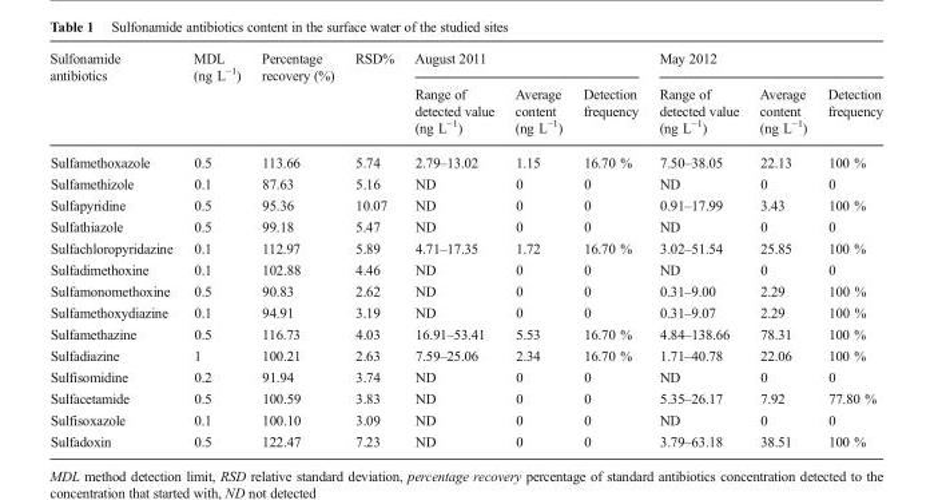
<table><thead><tr><td rowspan="2">Sulfonamide antibiotics</td><td rowspan="2">MDL (ng L<sup>−1</sup>)</td><td rowspan="2">Percentage recovery (%)</td><td rowspan="2">RSD%</td><td colspan="3">August 2011</td><td colspan="3">May 2012</td></tr><tr><td>Range of detected value (ng L<sup>−1</sup>)</td><td>Average content (ng L<sup>−1</sup>)</td><td>Detection frequency</td><td>Range of detected value (ng L<sup>−1</sup>)</td><td>Average content (ng L<sup>−1</sup>)</td><td>Detection frequency</td></tr></thead><tbody><tr><td>Sulfamethoxazole</td><td>0.5</td><td>113.66</td><td>5.74</td><td>2.79–13.02</td><td>1.15</td><td>16.70 %</td><td>7.50–38.05</td><td>22.13</td><td>100 %</td></tr><tr><td>Sulfamethizole</td><td>0.1</td><td>87.63</td><td>5.16</td><td>ND</td><td>0</td><td>0</td><td>ND</td><td>0</td><td>0</td></tr><tr><td>Sulfapyridine</td><td>0.5</td><td>95.36</td><td>10.07</td><td>ND</td><td>0</td><td>0</td><td>0.91–17.99</td><td>3.43</td><td>100 %</td></tr><tr><td>Sulfathiazole</td><td>0.5</td><td>99.18</td><td>5.47</td><td>ND</td><td>0</td><td>0</td><td>ND</td><td>0</td><td>0</td></tr><tr><td>Sulfachloropyridazine</td><td>0.1</td><td>112.97</td><td>5.89</td><td>4.71–17.35</td><td>1.72</td><td>16.70 %</td><td>3.02–51.54</td><td>25.85</td><td>100 %</td></tr><tr><td>Sulfadimethoxine</td><td>0.1</td><td>102.88</td><td>4.46</td><td>ND</td><td>0</td><td>0</td><td>ND</td><td>0</td><td>0</td></tr><tr><td>Sulfamonomethoxine</td><td>0.5</td><td>90.83</td><td>2.62</td><td>ND</td><td>0</td><td>0</td><td>0.31–9.00</td><td>2.29</td><td>100 %</td></tr><tr><td>Sulfamethoxydiazine</td><td>0.1</td><td>94.91</td><td>3.19</td><td>ND</td><td>0</td><td>0</td><td>0.31–9.07</td><td>2.29</td><td>100 %</td></tr><tr><td>Sulfamethazine</td><td>0.5</td><td>116.73</td><td>4.03</td><td>16.91–53.41</td><td>5.53</td><td>16.70 %</td><td>4.84–138.66</td><td>78.31</td><td>100 %</td></tr><tr><td>Sulfadiazine</td><td>1</td><td>100.21</td><td>2.63</td><td>7.59–25.06</td><td>2.34</td><td>16.70 %</td><td>1.71–40.78</td><td>22.06</td><td>100 %</td></tr><tr><td>Sulfisomidine</td><td>0.2</td><td>91.94</td><td>3.74</td><td>ND</td><td>0</td><td>0</td><td>ND</td><td>0</td><td>0</td></tr><tr><td>Sulfacetamide</td><td>0.5</td><td>100.59</td><td>3.83</td><td>ND</td><td>0</td><td>0</td><td>5.35–26.17</td><td>7.92</td><td>77.80 %</td></tr><tr><td>Sulfisoxazole</td><td>0.1</td><td>100.10</td><td>3.09</td><td>ND</td><td>0</td><td>0</td><td>ND</td><td>0</td><td>0</td></tr><tr><td>Sulfadoxin</td><td>0.5</td><td>122.47</td><td>7.23</td><td>ND</td><td>0</td><td>0</td><td>3.79–63.18</td><td>38.51</td><td>100 %</td></tr></tbody></table>